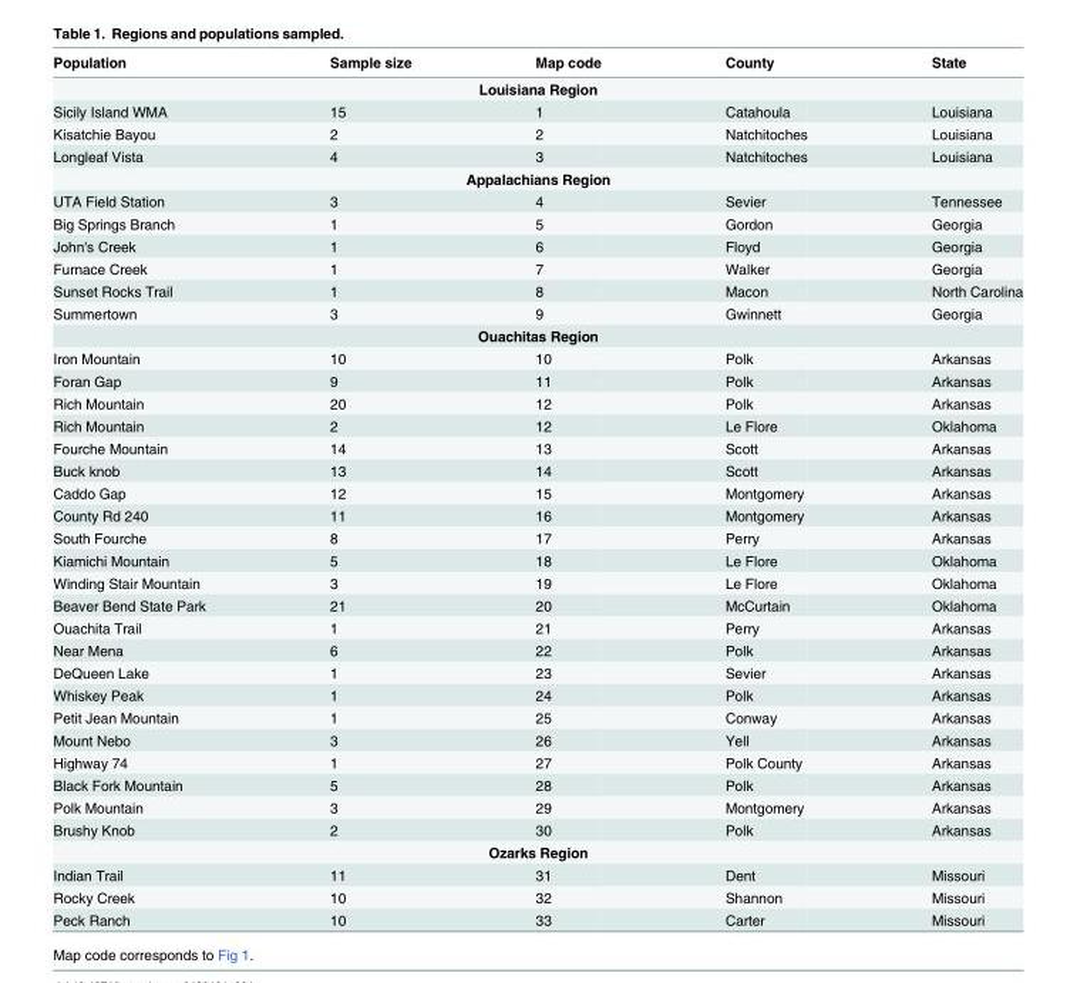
<table><thead><tr><td>Population</td><td>Sample size</td><td>Map code</td><td>County</td><td>State</td></tr></thead><tbody><tr><td colspan="5">Louisiana Region</td></tr><tr><td>Sicily Island WMA</td><td>15</td><td>1</td><td>Catahoula</td><td>Louisiana</td></tr><tr><td>Kisatchie Bayou</td><td>2</td><td>2</td><td>Natchitoches</td><td>Louisiana</td></tr><tr><td>Longleaf Vista</td><td>4</td><td>3</td><td>Natchitoches</td><td>Louisiana</td></tr><tr><td colspan="5">Appalachians Region</td></tr><tr><td>UTA Field Station</td><td>3</td><td>4</td><td>Sevier</td><td>Tennessee</td></tr><tr><td>Big Springs Branch</td><td>1</td><td>5</td><td>Gordon</td><td>Georgia</td></tr><tr><td>John&#x27;s Creek</td><td>1</td><td>6</td><td>Floyd</td><td>Georgia</td></tr><tr><td>Furnace Creek</td><td>1</td><td>7</td><td>Walker</td><td>Georgia</td></tr><tr><td>Sunset Rocks Trail</td><td>1</td><td>8</td><td>Macon</td><td>North Carolina</td></tr><tr><td>Summertown</td><td>3</td><td>9</td><td>Gwinnett</td><td>Georgia</td></tr><tr><td colspan="5">Ouachitas Region</td></tr><tr><td>Iron Mountain</td><td>10</td><td>10</td><td>Polk</td><td>Arkansas</td></tr><tr><td>Foran Gap</td><td>9</td><td>11</td><td>Polk</td><td>Arkansas</td></tr><tr><td>Rich Mountain</td><td>20</td><td>12</td><td>Polk</td><td>Arkansas</td></tr><tr><td>Rich Mountain</td><td>2</td><td>12</td><td>Le Flore</td><td>Oklahoma</td></tr><tr><td>Fourche Mountain</td><td>14</td><td>13</td><td>Scott</td><td>Arkansas</td></tr><tr><td>Buck knob</td><td>13</td><td>14</td><td>Scott</td><td>Arkansas</td></tr><tr><td>Caddo Gap</td><td>12</td><td>15</td><td>Montgomery</td><td>Arkansas</td></tr><tr><td>County Rd 240</td><td>11</td><td>16</td><td>Montgomery</td><td>Arkansas</td></tr><tr><td>South Fourche</td><td>8</td><td>17</td><td>Perry</td><td>Arkansas</td></tr><tr><td>Kiamichi Mountain</td><td>5</td><td>18</td><td>Le Flore</td><td>Oklahoma</td></tr><tr><td>Winding Stair Mountain</td><td>3</td><td>19</td><td>Le Flore</td><td>Oklahoma</td></tr><tr><td>Beaver Bend State Park</td><td>21</td><td>20</td><td>McCurtain</td><td>Oklahoma</td></tr><tr><td>Ouachita Trail</td><td>1</td><td>21</td><td>Perry</td><td>Arkansas</td></tr><tr><td>Near Mena</td><td>6</td><td>22</td><td>Polk</td><td>Arkansas</td></tr><tr><td>DeQueen Lake</td><td>1</td><td>23</td><td>Sevier</td><td>Arkansas</td></tr><tr><td>Whiskey Peak</td><td>1</td><td>24</td><td>Polk</td><td>Arkansas</td></tr><tr><td>Petit Jean Mountain</td><td>1</td><td>25</td><td>Conway</td><td>Arkansas</td></tr><tr><td>Mount Nebo</td><td>3</td><td>26</td><td>Yell</td><td>Arkansas</td></tr><tr><td>Highway 74</td><td>1</td><td>27</td><td>Polk County</td><td>Arkansas</td></tr><tr><td>Black Fork Mountain</td><td>5</td><td>28</td><td>Polk</td><td>Arkansas</td></tr><tr><td>Polk Mountain</td><td>3</td><td>29</td><td>Montgomery</td><td>Arkansas</td></tr><tr><td>Brushy Knob</td><td>2</td><td>30</td><td>Polk</td><td>Arkansas</td></tr><tr><td colspan="5">Ozarks Region</td></tr><tr><td>Indian Trail</td><td>11</td><td>31</td><td>Dent</td><td>Missouri</td></tr><tr><td>Rocky Creek</td><td>10</td><td>32</td><td>Shannon</td><td>Missouri</td></tr><tr><td>Peck Ranch</td><td>10</td><td>33</td><td>Carter</td><td>Missouri</td></tr></tbody></table>